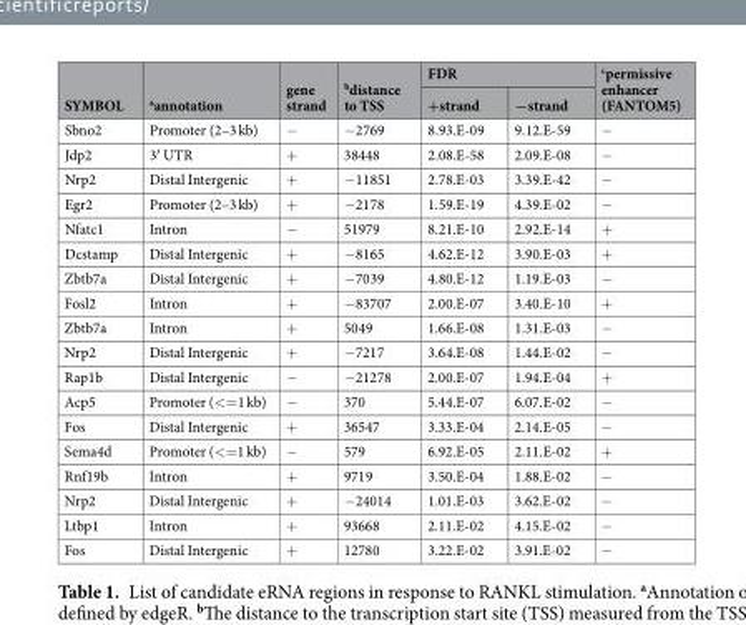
<table><thead><tr><td rowspan="2">SYMBOL</td><td rowspan="2"><sup>a</sup>annotation</td><td rowspan="2">gene strand</td><td rowspan="2"><sup>b</sup>distance to TSS</td><td colspan="2">FDR</td><td rowspan="2"><sup>c</sup>permissive enhancer (FANTOM5)</td></tr><tr><td>+strand</td><td>−strand</td></tr></thead><tbody><tr><td>Sbno2</td><td>Promoter (2–3 kb)</td><td>−</td><td>−2769</td><td>8.93.E-09</td><td>9.12.E-59</td><td>−</td></tr><tr><td>Jdp2</td><td>3′ UTR</td><td>+</td><td>38448</td><td>2.08.E-58</td><td>2.09.E-08</td><td>−</td></tr><tr><td>Nrp2</td><td>Distal Intergenic</td><td>+</td><td>−11851</td><td>2.78.E-03</td><td>3.39.E-42</td><td>−</td></tr><tr><td>Egr2</td><td>Promoter (2–3 kb)</td><td>+</td><td>−2178</td><td>1.59.E-19</td><td>4.39.E-02</td><td>−</td></tr><tr><td>Nfatc1</td><td>Intron</td><td>−</td><td>51979</td><td>8.21.E-10</td><td>2.92.E-14</td><td>+</td></tr><tr><td>Dcstamp</td><td>Distal Intergenic</td><td>+</td><td>−8165</td><td>4.62.E-12</td><td>3.90.E-03</td><td>+</td></tr><tr><td>Zbtb7a</td><td>Distal Intergenic</td><td>+</td><td>−7039</td><td>4.80.E-12</td><td>1.19.E-03</td><td>−</td></tr><tr><td>Fosl2</td><td>Intron</td><td>+</td><td>−83707</td><td>2.00.E-07</td><td>3.40.E-10</td><td>+</td></tr><tr><td>Zbtb7a</td><td>Intron</td><td>+</td><td>5049</td><td>1.66.E-08</td><td>1.31.E-03</td><td>−</td></tr><tr><td>Nrp2</td><td>Distal Intergenic</td><td>+</td><td>−7217</td><td>3.64.E-08</td><td>1.44.E-02</td><td>−</td></tr><tr><td>Rap1b</td><td>Distal Intergenic</td><td>−</td><td>−21278</td><td>2.00.E-07</td><td>1.94.E-04</td><td>+</td></tr><tr><td>Acp5</td><td>Promoter (&lt;=1 kb)</td><td>−</td><td>370</td><td>5.44.E-07</td><td>6.07.E-02</td><td>−</td></tr><tr><td>Fos</td><td>Distal Intergenic</td><td>+</td><td>36547</td><td>3.33.E-04</td><td>2.14.E-05</td><td>−</td></tr><tr><td>Sema4d</td><td>Promoter (&lt;=1 kb)</td><td>−</td><td>579</td><td>6.92.E-05</td><td>2.11.E-02</td><td>+</td></tr><tr><td>Rnf19b</td><td>Intron</td><td>+</td><td>9719</td><td>3.50.E-04</td><td>1.88.E-02</td><td>−</td></tr><tr><td>Nrp2</td><td>Distal Intergenic</td><td>+</td><td>−24014</td><td>1.01.E-03</td><td>3.62.E-02</td><td>−</td></tr><tr><td>Ltbp1</td><td>Intron</td><td>+</td><td>93668</td><td>2.11.E-02</td><td>4.15.E-02</td><td>−</td></tr><tr><td>Fos</td><td>Distal Intergenic</td><td>+</td><td>12780</td><td>3.22.E-02</td><td>3.91.E-02</td><td>−</td></tr></tbody></table>